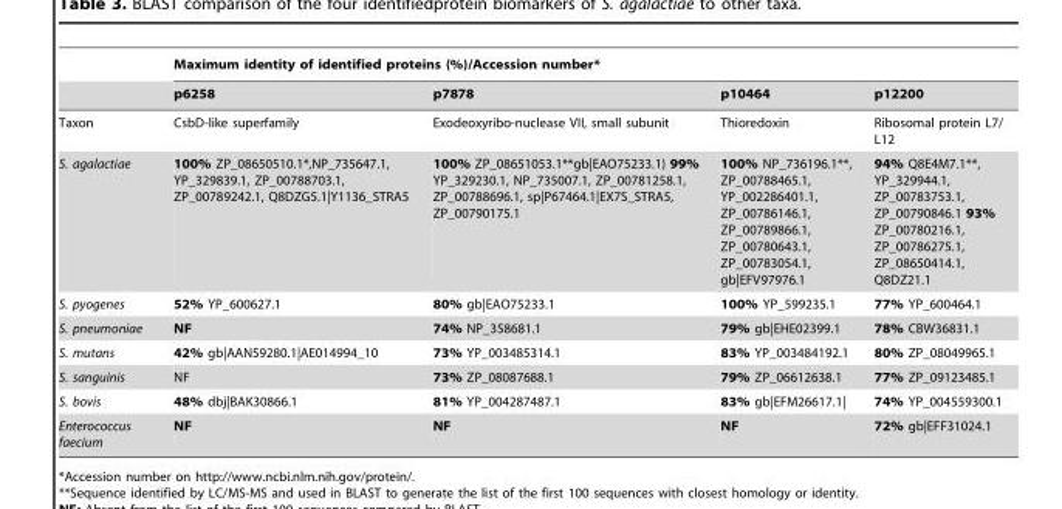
<table><thead><tr><td rowspan="2"></td><td colspan="4">Maximum identity of identified proteins (%)/Accession number*</td></tr><tr><td>p6258</td><td>p7878</td><td>p10464</td><td>p12200</td></tr></thead><tbody><tr><td>Taxon</td><td>CsbD-like superfamily</td><td>Exodeoxyribo-nuclease VII, small subunit</td><td>Thioredoxin</td><td>Ribosomal protein L7/ L12</td></tr><tr><td>S. agalactiae</td><td>100% ZP_08650510.1*,NP_735647.1, YP_329839.1, ZP_00788703.1, ZP_00789242.1, Q8DZG5.1|Y1136_STRA5</td><td>100% ZP_08651053.1**gb|EAO75233.1) 99% YP_329230.1, NP_735007.1, ZP_00781258.1, ZP_00788696.1, sp|P67464.1|EX7S_STRA5, ZP_00790175.1</td><td>100% NP_736196.1**, ZP_00788465.1, YP_002286401.1, ZP_00786146.1, ZP_00789866.1, ZP_00780643.1, ZP_00783054.1, gb|EFV97976.1</td><td>94% Q8E4M7.1**, YP_329944.1, ZP_00783753.1, ZP_00790846.1 93% ZP_00780216.1, ZP_00786275.1, ZP_08650414.1, Q8DZ21.1</td></tr><tr><td>S. pyogenes</td><td>52% YP_600627.1</td><td>80% gb|EAO75233.1</td><td>100% YP_599235.1</td><td>77% YP_600464.1</td></tr><tr><td>S. pneumoniae</td><td>NF</td><td>74% NP_358681.1</td><td>79% gb|EHE02399.1</td><td>78% CBW36831.1</td></tr><tr><td>S. mutans</td><td>42% gb|AAN59280.1|AE014994_10</td><td>73% YP_003485314.1</td><td>83% YP_003484192.1</td><td>80% ZP_08049965.1</td></tr><tr><td>S. sanguinis</td><td>NF</td><td>73% ZP_08087688.1</td><td>79% ZP_06612638.1</td><td>77% ZP_09123485.1</td></tr><tr><td>S. bovis</td><td>48% dbj|BAK30866.1</td><td>81% YP_004287487.1</td><td>83% gb|EFM26617.1|</td><td>74% YP_004559300.1</td></tr><tr><td>Enterococcus faecium</td><td>NF</td><td>NF</td><td>NF</td><td>72% gb|EFF31024.1</td></tr></tbody></table>